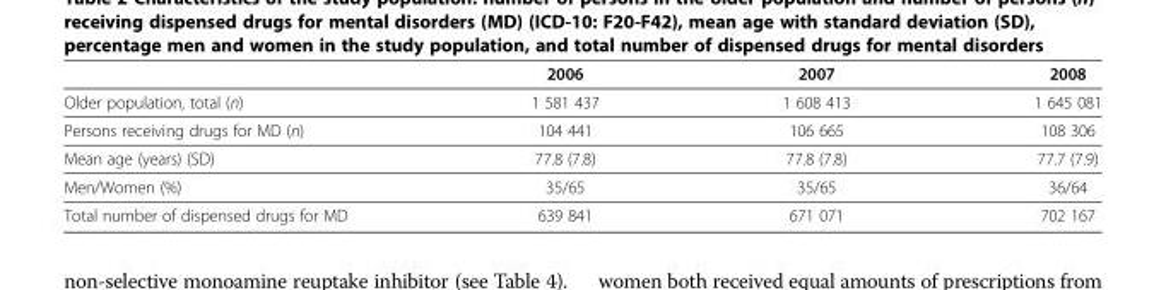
<table><thead><tr><td></td><td>2006</td><td>2007</td><td>2008</td></tr></thead><tbody><tr><td>Older population, total (n)</td><td>1 581 437</td><td>1 608 413</td><td>1 645 081</td></tr><tr><td>Persons receiving drugs for MD (n)</td><td>104 441</td><td>106 665</td><td>108 306</td></tr><tr><td>Mean age (years) (SD)</td><td>77.8 (7.8)</td><td>77.8 (7.8)</td><td>77.7 (7.9)</td></tr><tr><td>Men/Women (%)</td><td>35/65</td><td>35/65</td><td>36/64</td></tr><tr><td>Total number of dispensed drugs for MD</td><td>639 841</td><td>671 071</td><td>702 167</td></tr></tbody></table>